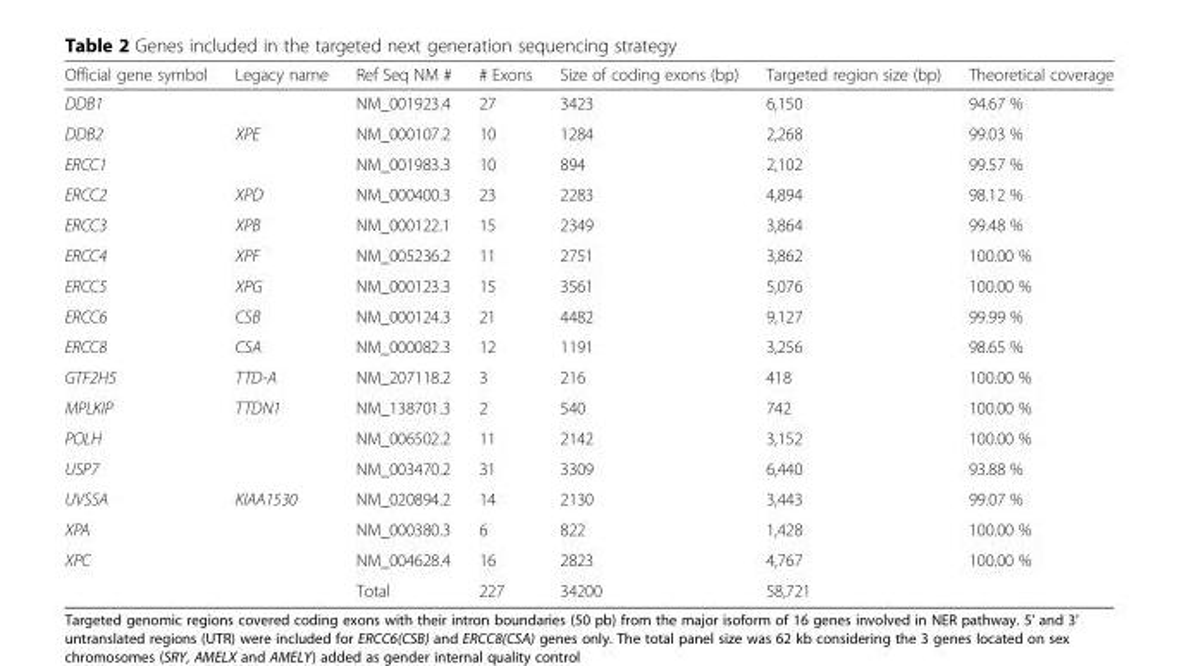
<table><thead><tr><td>Official gene symbol</td><td>Legacy name</td><td>Ref Seq NM #</td><td># Exons</td><td>Size of coding exons (bp)</td><td>Targeted region size (bp)</td><td>Theoretical coverage</td></tr></thead><tbody><tr><td>DDB1</td><td></td><td>NM_001923.4</td><td>27</td><td>3423</td><td>6,150</td><td>94.67 %</td></tr><tr><td>DDB2</td><td>XPE</td><td>NM_000107.2</td><td>10</td><td>1284</td><td>2,268</td><td>99.03 %</td></tr><tr><td>ERCC1</td><td></td><td>NM_001983.3</td><td>10</td><td>894</td><td>2,102</td><td>99.57 %</td></tr><tr><td>ERCC2</td><td>XPD</td><td>NM_000400.3</td><td>23</td><td>2283</td><td>4,894</td><td>98.12 %</td></tr><tr><td>ERCC3</td><td>XPB</td><td>NM_000122.1</td><td>15</td><td>2349</td><td>3,864</td><td>99.48 %</td></tr><tr><td>ERCC4</td><td>XPF</td><td>NM_005236.2</td><td>11</td><td>2751</td><td>3,862</td><td>100.00 %</td></tr><tr><td>ERCC5</td><td>XPG</td><td>NM_000123.3</td><td>15</td><td>3561</td><td>5,076</td><td>100.00 %</td></tr><tr><td>ERCC6</td><td>CSB</td><td>NM_000124.3</td><td>21</td><td>4482</td><td>9,127</td><td>99.99 %</td></tr><tr><td>ERCC8</td><td>CSA</td><td>NM_000082.3</td><td>12</td><td>1191</td><td>3,256</td><td>98.65 %</td></tr><tr><td>GTF2H5</td><td>TTD-A</td><td>NM_207118.2</td><td>3</td><td>216</td><td>418</td><td>100.00 %</td></tr><tr><td>MPLKIP</td><td>TTDN1</td><td>NM_138701.3</td><td>2</td><td>540</td><td>742</td><td>100.00 %</td></tr><tr><td>POLH</td><td></td><td>NM_006502.2</td><td>11</td><td>2142</td><td>3,152</td><td>100.00 %</td></tr><tr><td>USP7</td><td></td><td>NM_003470.2</td><td>31</td><td>3309</td><td>6,440</td><td>93.88 %</td></tr><tr><td>UVSSA</td><td>KIAA1530</td><td>NM_020894.2</td><td>14</td><td>2130</td><td>3,443</td><td>99.07 %</td></tr><tr><td>XPA</td><td></td><td>NM_000380.3</td><td>6</td><td>822</td><td>1,428</td><td>100.00 %</td></tr><tr><td rowspan="2">XPC</td><td></td><td>NM_004628.4</td><td>16</td><td>2823</td><td>4,767</td><td>100.00 %</td></tr><tr><td></td><td>Total</td><td>227</td><td>34200</td><td>58,721</td><td></td></tr></tbody></table>